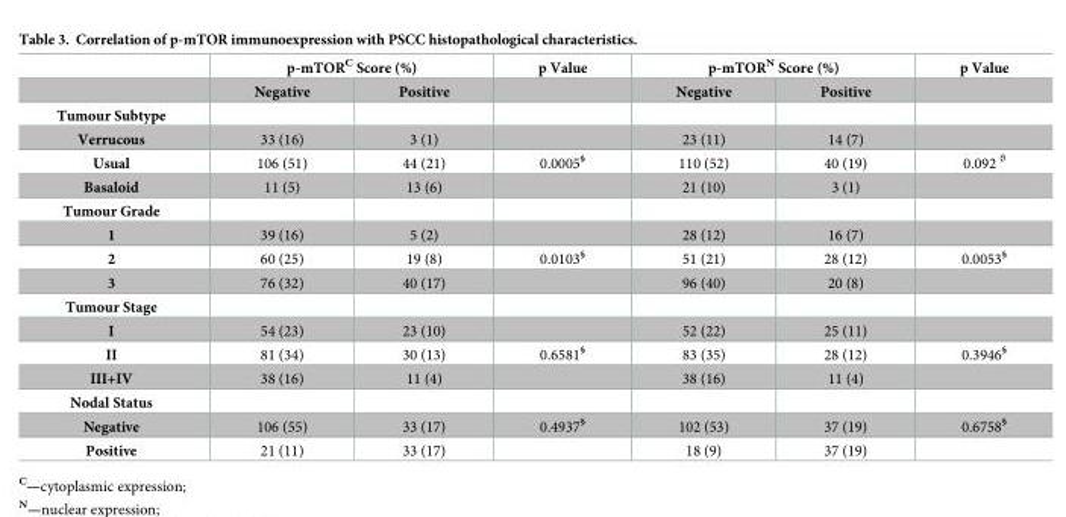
<table><thead><tr><td rowspan="2"></td><td colspan="2">p-mTOR<sup>C</sup> Score (%)</td><td rowspan="2">p Value</td><td colspan="2">p-mTOR<sup>N</sup> Score (%)</td><td rowspan="2">p Value</td></tr><tr><td>Negative</td><td>Positive</td><td>Negative</td><td>Positive</td></tr></thead><tbody><tr><td colspan="7">Tumour Subtype</td></tr><tr><td>Verrucous</td><td>33 (16)</td><td>3 (1)</td><td></td><td>23 (11)</td><td>14 (7)</td><td></td></tr><tr><td>Usual</td><td>106 (51)</td><td>44 (21)</td><td>0.0005<sup>§</sup></td><td>110 (52)</td><td>40 (19)</td><td>0.092 <sup>ϑ</sup></td></tr><tr><td>Basaloid</td><td>11 (5)</td><td>13 (6)</td><td></td><td>21 (10)</td><td>3 (1)</td><td></td></tr><tr><td colspan="7">Tumour Grade</td></tr><tr><td>1</td><td>39 (16)</td><td>5 (2)</td><td></td><td>28 (12)</td><td>16 (7)</td><td></td></tr><tr><td>2</td><td>60 (25)</td><td>19 (8)</td><td>0.0103<sup>§</sup></td><td>51 (21)</td><td>28 (12)</td><td>0.0053<sup>§</sup></td></tr><tr><td>3</td><td>76 (32)</td><td>40 (17)</td><td></td><td>96 (40)</td><td>20 (8)</td><td></td></tr><tr><td colspan="7">Tumour Stage</td></tr><tr><td>I</td><td>54 (23)</td><td>23 (10)</td><td></td><td>52 (22)</td><td>25 (11)</td><td></td></tr><tr><td>II</td><td>81 (34)</td><td>30 (13)</td><td>0.6581<sup>§</sup></td><td>83 (35)</td><td>28 (12)</td><td>0.3946<sup>§</sup></td></tr><tr><td>III+IV</td><td>38 (16)</td><td>11 (4)</td><td></td><td>38 (16)</td><td>11 (4)</td><td></td></tr><tr><td colspan="7">Nodal Status</td></tr><tr><td>Negative</td><td>106 (55)</td><td>33 (17)</td><td>0.4937<sup>§</sup></td><td>102 (53)</td><td>37 (19)</td><td>0.6758<sup>§</sup></td></tr><tr><td>Positive</td><td>21 (11)</td><td>33 (17)</td><td></td><td>18 (9)</td><td>37 (19)</td><td></td></tr></tbody></table>